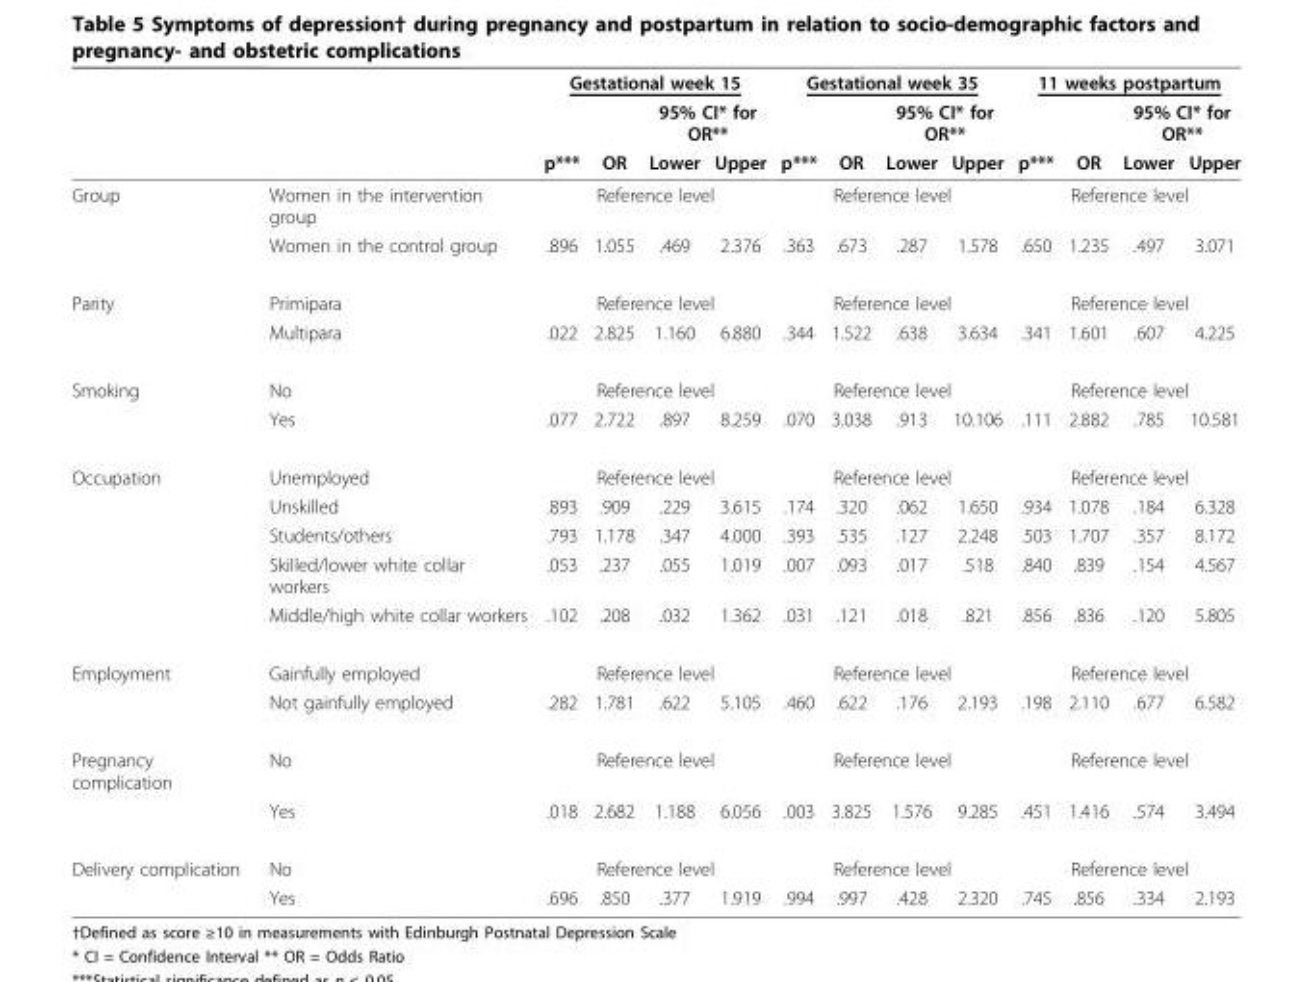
<table><thead><tr><td rowspan="3"></td><td rowspan="3"></td><td colspan="4">Gestational week 15</td><td colspan="4">Gestational week 35</td><td colspan="4">11 weeks postpartum</td></tr><tr><td rowspan="2">p***</td><td rowspan="2">OR</td><td colspan="2">95% CI* for OR**</td><td rowspan="2">p***</td><td rowspan="2">OR</td><td colspan="2">95% CI* for OR**</td><td rowspan="2">p***</td><td rowspan="2">OR</td><td colspan="2">95% CI* for OR**</td></tr><tr><td>Lower</td><td>Upper</td><td>Lower</td><td>Upper</td><td>Lower</td><td>Upper</td></tr></thead><tbody><tr><td rowspan="2">Group</td><td>Women in the intervention group</td><td colspan="4">Reference level</td><td colspan="4">Reference level</td><td colspan="4">Reference level</td></tr><tr><td>Women in the control group</td><td>.896</td><td>1.055</td><td>.469</td><td>2.376</td><td>.363</td><td>.673</td><td>.287</td><td>1.578</td><td>.650</td><td>1.235</td><td>.497</td><td>3.071</td></tr><tr><td rowspan="2">Parity</td><td>Primipara</td><td colspan="4">Reference level</td><td colspan="4">Reference level</td><td colspan="4">Reference level</td></tr><tr><td>Multipara</td><td>.022</td><td>2.825</td><td>1.160</td><td>6.880</td><td>.344</td><td>1.522</td><td>.638</td><td>3.634</td><td>.341</td><td>1.601</td><td>.607</td><td>4.225</td></tr><tr><td rowspan="2">Smoking</td><td>No</td><td colspan="4">Reference level</td><td colspan="4">Reference level</td><td colspan="4">Reference level</td></tr><tr><td>Yes</td><td>.077</td><td>2.722</td><td>.897</td><td>8.259</td><td>.070</td><td>3.038</td><td>.913</td><td>10.106</td><td>.111</td><td>2.882</td><td>.785</td><td>10.581</td></tr><tr><td rowspan="5">Occupation</td><td>Unemployed</td><td colspan="4">Reference level</td><td colspan="4">Reference level</td><td colspan="4">Reference level</td></tr><tr><td>Unskilled</td><td>.893</td><td>.909</td><td>.229</td><td>3.615</td><td>.174</td><td>.320</td><td>.062</td><td>1.650</td><td>.934</td><td>1.078</td><td>.184</td><td>6.328</td></tr><tr><td>Students/others</td><td>.793</td><td>1.178</td><td>.347</td><td>4.000</td><td>.393</td><td>.535</td><td>.127</td><td>2.248</td><td>.503</td><td>1.707</td><td>.357</td><td>8.172</td></tr><tr><td>Skilled/lower white collar workers</td><td>.053</td><td>.237</td><td>.055</td><td>1.019</td><td>.007</td><td>.093</td><td>.017</td><td>.518</td><td>.840</td><td>.839</td><td>.154</td><td>4.567</td></tr><tr><td>Middle/high white collar workers</td><td>.102</td><td>.208</td><td>.032</td><td>1.362</td><td>.031</td><td>.121</td><td>.018</td><td>.821</td><td>.856</td><td>.836</td><td>.120</td><td>5.805</td></tr><tr><td rowspan="2">Employment</td><td>Gainfully employed</td><td colspan="4">Reference level</td><td colspan="4">Reference level</td><td colspan="4">Reference level</td></tr><tr><td>Not gainfully employed</td><td>.282</td><td>1.781</td><td>.622</td><td>5.105</td><td>.460</td><td>.622</td><td>.176</td><td>2.193</td><td>.198</td><td>2.110</td><td>.677</td><td>6.582</td></tr><tr><td rowspan="2">Pregnancy complication</td><td>No</td><td colspan="4">Reference level</td><td colspan="4">Reference level</td><td colspan="4">Reference level</td></tr><tr><td>Yes</td><td>.018</td><td>2.682</td><td>1.188</td><td>6.056</td><td>.003</td><td>3.825</td><td>1.576</td><td>9.285</td><td>.451</td><td>1.416</td><td>.574</td><td>3.494</td></tr><tr><td rowspan="2">Delivery complication</td><td>No</td><td colspan="4">Reference level</td><td colspan="4">Reference level</td><td colspan="4">Reference level</td></tr><tr><td>Yes</td><td>.696</td><td>.850</td><td>.377</td><td>1.919</td><td>.994</td><td>.997</td><td>.428</td><td>2.320</td><td>.745</td><td>.856</td><td>.334</td><td>2.193</td></tr></tbody></table>